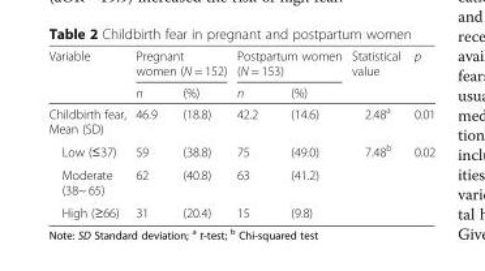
<table><thead><tr><td rowspan="2">Variable</td><td colspan="2">Pregnant women (N = 152)</td><td colspan="2">Postpartum women (N = 153)</td><td rowspan="2">Statistical value</td><td rowspan="2">p</td></tr><tr><td>n</td><td>(%)</td><td>n</td><td>(%)</td></tr></thead><tbody><tr><td>Childbirth fear, Mean (SD)</td><td>46.9</td><td>(18.8)</td><td>42.2</td><td>(14.6)</td><td>2.48<sup>a</sup></td><td>0.01</td></tr><tr><td>Low (≤37)</td><td>59</td><td>(38.8)</td><td>75</td><td>(49.0)</td><td>7.48<sup>b</sup></td><td>0.02</td></tr><tr><td>Moderate (38~ 65)</td><td>62</td><td>(40.8)</td><td>63</td><td>(41.2)</td><td></td><td></td></tr><tr><td>High (≥66)</td><td>31</td><td>(20.4)</td><td>15</td><td>(9.8)</td><td></td><td></td></tr></tbody></table>